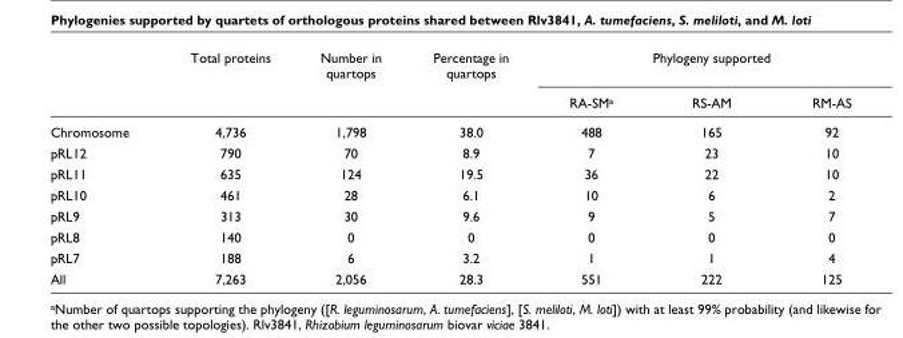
<table><thead><tr><td rowspan="2"></td><td rowspan="2">Total proteins</td><td rowspan="2">Number in quartops</td><td rowspan="2">Percentage in quartops</td><td colspan="3">Phylogeny supported</td></tr><tr><td>RA-SMa</td><td>RS-AM</td><td>RM-AS</td></tr></thead><tbody><tr><td>Chromosome</td><td>4,736</td><td>1,798</td><td>38.0</td><td>488</td><td>165</td><td>92</td></tr><tr><td>pRL12</td><td>790</td><td>70</td><td>8.9</td><td>7</td><td>23</td><td>10</td></tr><tr><td>pRL11</td><td>635</td><td>124</td><td>19.5</td><td>36</td><td>22</td><td>10</td></tr><tr><td>pRL10</td><td>461</td><td>28</td><td>6.1</td><td>10</td><td>6</td><td>2</td></tr><tr><td>pRL9</td><td>313</td><td>30</td><td>9.6</td><td>9</td><td>5</td><td>7</td></tr><tr><td>pRL8</td><td>140</td><td>0</td><td>0</td><td>0</td><td>0</td><td>0</td></tr><tr><td>pRL7</td><td>188</td><td>6</td><td>3.2</td><td>1</td><td>1</td><td>4</td></tr><tr><td>All</td><td>7,263</td><td>2,056</td><td>28.3</td><td>551</td><td>222</td><td>125</td></tr></tbody></table>